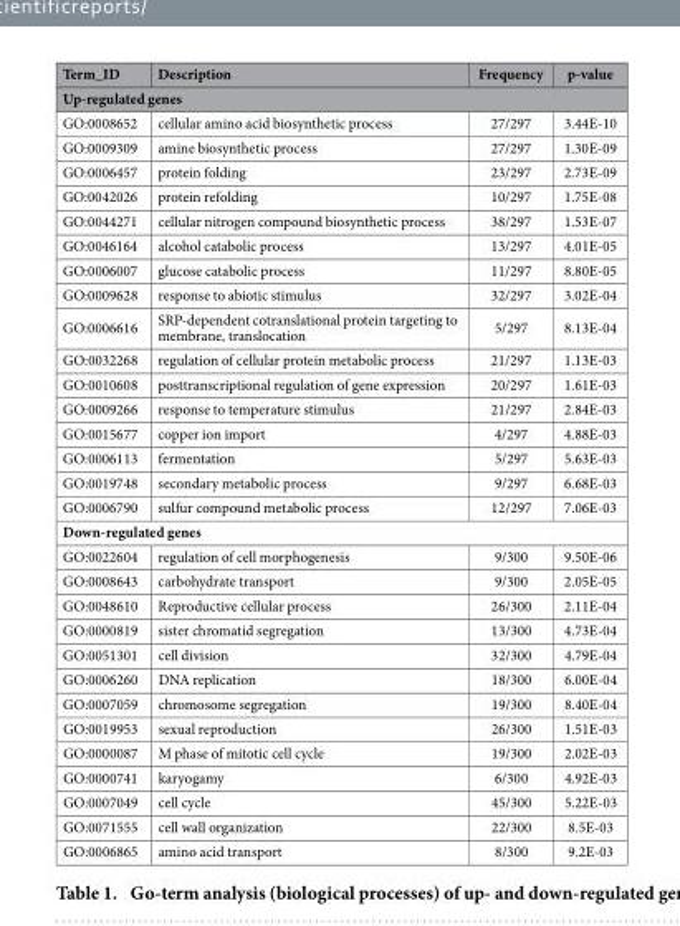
<table><thead><tr><td>Term_ID</td><td>Description</td><td>Frequency</td><td>p-value</td></tr><tr><td colspan="4">Up-regulated genes</td></tr></thead><tbody><tr><td>GO:0008652</td><td>cellular amino acid biosynthetic process</td><td>27/297</td><td>3.44E-10</td></tr><tr><td>GO:0009309</td><td>amine biosynthetic process</td><td>27/297</td><td>1.30E-09</td></tr><tr><td>GO:0006457</td><td>protein folding</td><td>23/297</td><td>2.73E-09</td></tr><tr><td>GO:0042026</td><td>protein refolding</td><td>10/297</td><td>1.75E-08</td></tr><tr><td>GO:0044271</td><td>cellular nitrogen compound biosynthetic process</td><td>38/297</td><td>1.53E-07</td></tr><tr><td>GO:0046164</td><td>alcohol catabolic process</td><td>13/297</td><td>4.01E-05</td></tr><tr><td>GO:0006007</td><td>glucose catabolic process</td><td>11/297</td><td>8.80E-05</td></tr><tr><td>GO:0009628</td><td>response to abiotic stimulus</td><td>32/297</td><td>3.02E-04</td></tr><tr><td>GO:0006616</td><td>SRP-dependent cotranslational protein targeting to membrane, translocation</td><td>5/297</td><td>8.13E-04</td></tr><tr><td>GO:0032268</td><td>regulation of cellular protein metabolic process</td><td>21/297</td><td>1.13E-03</td></tr><tr><td>GO:0010608</td><td>posttranscriptional regulation of gene expression</td><td>20/297</td><td>1.61E-03</td></tr><tr><td>GO:0009266</td><td>response to temperature stimulus</td><td>21/297</td><td>2.84E-03</td></tr><tr><td>GO:0015677</td><td>copper ion import</td><td>4/297</td><td>4.88E-03</td></tr><tr><td>GO:0006113</td><td>fermentation</td><td>5/297</td><td>5.63E-03</td></tr><tr><td>GO:0019748</td><td>secondary metabolic process</td><td>9/297</td><td>6.68E-03</td></tr><tr><td>GO:0006790</td><td>sulfur compound metabolic process</td><td>12/297</td><td>7.06E-03</td></tr><tr><td colspan="4">Down-regulated genes</td></tr><tr><td>GO:0022604</td><td>regulation of cell morphogenesis</td><td>9/300</td><td>9.50E-06</td></tr><tr><td>GO:0008643</td><td>carbohydrate transport</td><td>9/300</td><td>2.05E-05</td></tr><tr><td>GO:0048610</td><td>Reproductive cellular process</td><td>26/300</td><td>2.11E-04</td></tr><tr><td>GO:0000819</td><td>sister chromatid segregation</td><td>13/300</td><td>4.73E-04</td></tr><tr><td>GO:0051301</td><td>cell division</td><td>32/300</td><td>4.79E-04</td></tr><tr><td>GO:0006260</td><td>DNA replication</td><td>18/300</td><td>6.00E-04</td></tr><tr><td>GO:0007059</td><td>chromosome segregation</td><td>19/300</td><td>8.40E-04</td></tr><tr><td>GO:0019953</td><td>sexual reproduction</td><td>26/300</td><td>1.51E-03</td></tr><tr><td>GO:0000087</td><td>M phase of mitotic cell cycle</td><td>19/300</td><td>2.02E-03</td></tr><tr><td>GO:0000741</td><td>karyogamy</td><td>6/300</td><td>4.92E-03</td></tr><tr><td>GO:0007049</td><td>cell cycle</td><td>45/300</td><td>5.22E-03</td></tr><tr><td>GO:0071555</td><td>cell wall organization</td><td>22/300</td><td>8.5E-03</td></tr><tr><td>GO:0006865</td><td>amino acid transport</td><td>8/300</td><td>9.2E-03</td></tr></tbody></table>